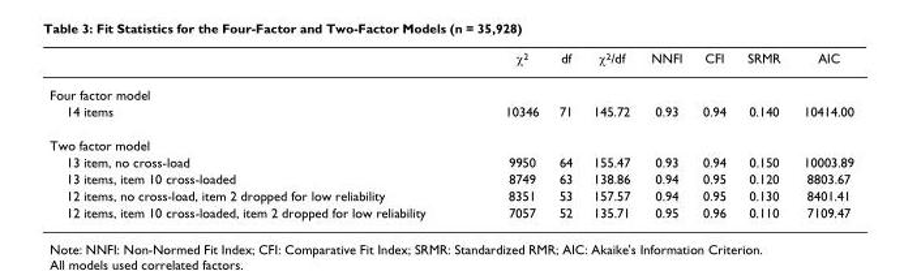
<table><thead><tr><td></td><td>χ<sup>2</sup></td><td>df</td><td>χ<sup>2</sup>/df</td><td>NNFI</td><td>CFI</td><td>SRMR</td><td>AIC</td></tr></thead><tbody><tr><td colspan="8">Four factor model</td></tr><tr><td>14 items</td><td>10346</td><td>71</td><td>145.72</td><td>0.93</td><td>0.94</td><td>0.140</td><td>10414.00</td></tr><tr><td colspan="8">Two factor model</td></tr><tr><td>13 item, no cross-load</td><td>9950</td><td>64</td><td>155.47</td><td>0.93</td><td>0.94</td><td>0.150</td><td>10003.89</td></tr><tr><td>13 items, item 10 cross-loaded</td><td>8749</td><td>63</td><td>138.86</td><td>0.94</td><td>0.95</td><td>0.120</td><td>8803.67</td></tr><tr><td>12 items, no cross-load, item 2 dropped for low reliability</td><td>8351</td><td>53</td><td>157.57</td><td>0.94</td><td>0.95</td><td>0.130</td><td>8401.41</td></tr><tr><td>12 items, item 10 cross-loaded, item 2 dropped for low reliability</td><td>7057</td><td>52</td><td>135.71</td><td>0.95</td><td>0.96</td><td>0.110</td><td>7109.47</td></tr></tbody></table>